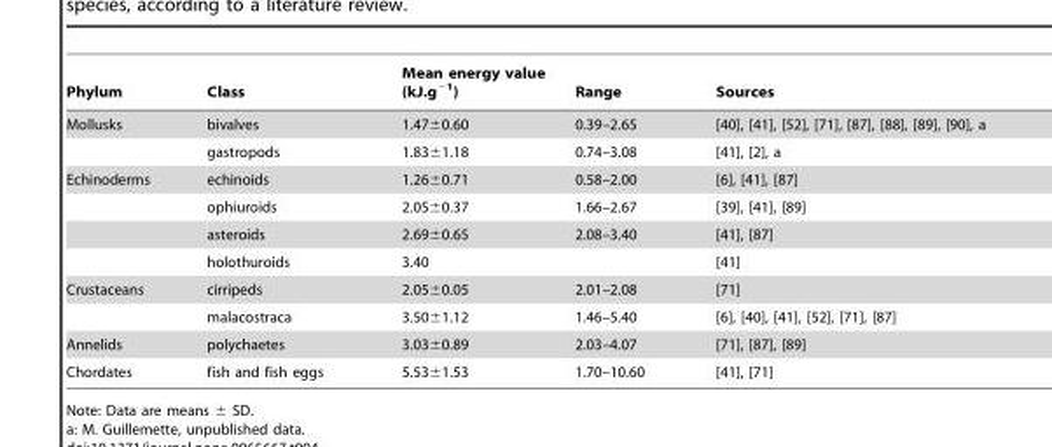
<table><thead><tr><td>Phylum</td><td>Class</td><td>Mean energy value (kJ.g<sup>−1</sup>)</td><td>Range</td><td>Sources</td></tr></thead><tbody><tr><td rowspan="2">Mollusks</td><td>bivalves</td><td>1.47±0.60</td><td>0.39–2.65</td><td>[40], [41], [52], [71], [87], [88], [89], [90], a</td></tr><tr><td>gastropods</td><td>1.83±1.18</td><td>0.74–3.08</td><td>[41], [2], a</td></tr><tr><td rowspan="4">Echinoderms</td><td>echinoids</td><td>1.26±0.71</td><td>0.58–2.00</td><td>[6], [41], [87]</td></tr><tr><td>ophiuroids</td><td>2.05±0.37</td><td>1.66–2.67</td><td>[39], [41], [89]</td></tr><tr><td>asteroids</td><td>2.69±0.65</td><td>2.08–3.40</td><td>[41], [87]</td></tr><tr><td>holothuroids</td><td>3.40</td><td></td><td>[41]</td></tr><tr><td rowspan="2">Crustaceans</td><td>cirripeds</td><td>2.05±0.05</td><td>2.01–2.08</td><td>[71]</td></tr><tr><td>malacostraca</td><td>3.50±1.12</td><td>1.46–5.40</td><td>[6], [40], [41], [52], [71], [87]</td></tr><tr><td>Annelids</td><td>polychaetes</td><td>3.03±0.89</td><td>2.03–4.07</td><td>[71], [87], [89]</td></tr><tr><td>Chordates</td><td>fish and fish eggs</td><td>5.53±1.53</td><td>1.70–10.60</td><td>[41], [71]</td></tr></tbody></table>